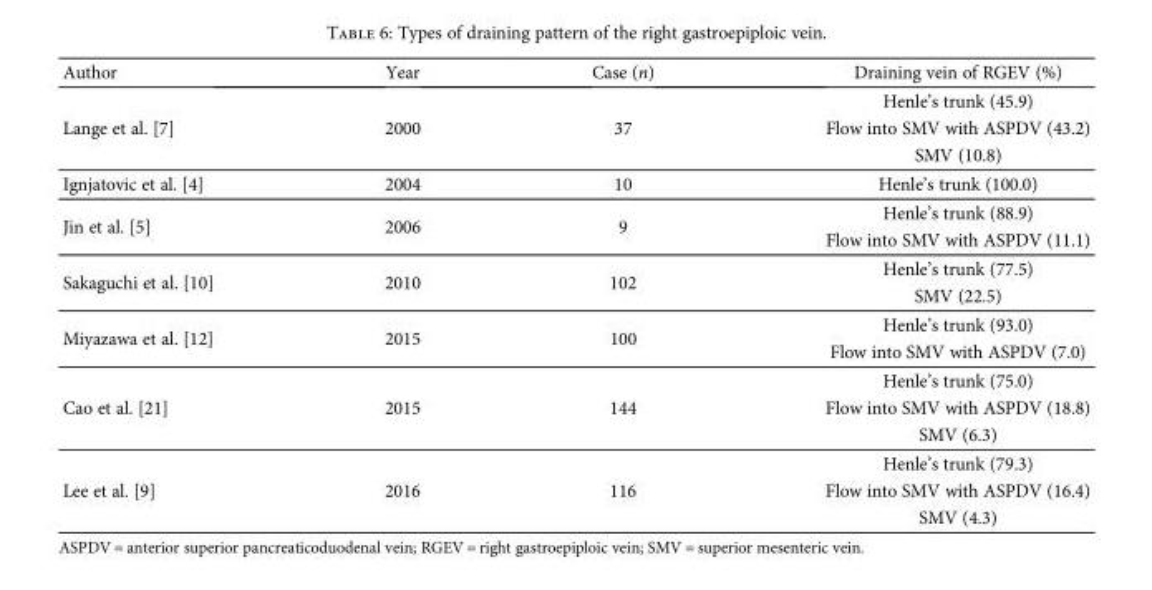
<table><thead><tr><td>Author</td><td>Year</td><td>Case (n)</td><td>Draining vein of RGEV (%)</td></tr></thead><tbody><tr><td rowspan="3">Lange et al. [7]</td><td rowspan="3">2000</td><td rowspan="3">37</td><td>Henle’s trunk (45.9)</td></tr><tr><td>Flow into SMV with ASPDV (43.2)</td></tr><tr><td>SMV (10.8)</td></tr><tr><td>Ignjatovic et al. [4]</td><td>2004</td><td>10</td><td>Henle’s trunk (100.0)</td></tr><tr><td rowspan="2">Jin et al. [5]</td><td rowspan="2">2006</td><td rowspan="2">9</td><td>Henle’s trunk (88.9)</td></tr><tr><td>Flow into SMV with ASPDV (11.1)</td></tr><tr><td rowspan="2">Sakaguchi et al. [10]</td><td rowspan="2">2010</td><td rowspan="2">102</td><td>Henle’s trunk (77.5)</td></tr><tr><td>SMV (22.5)</td></tr><tr><td rowspan="2">Miyazawa et al. [12]</td><td rowspan="2">2015</td><td rowspan="2">100</td><td>Henle’s trunk (93.0)</td></tr><tr><td>Flow into SMV with ASPDV (7.0)</td></tr><tr><td rowspan="3">Cao et al. [21]</td><td rowspan="3">2015</td><td rowspan="3">144</td><td>Henle’s trunk (75.0)</td></tr><tr><td>Flow into SMV with ASPDV (18.8)</td></tr><tr><td>SMV (6.3)</td></tr><tr><td rowspan="3">Lee et al. [9]</td><td rowspan="3">2016</td><td rowspan="3">116</td><td>Henle’s trunk (79.3)</td></tr><tr><td>Flow into SMV with ASPDV (16.4)</td></tr><tr><td>SMV (4.3)</td></tr></tbody></table>